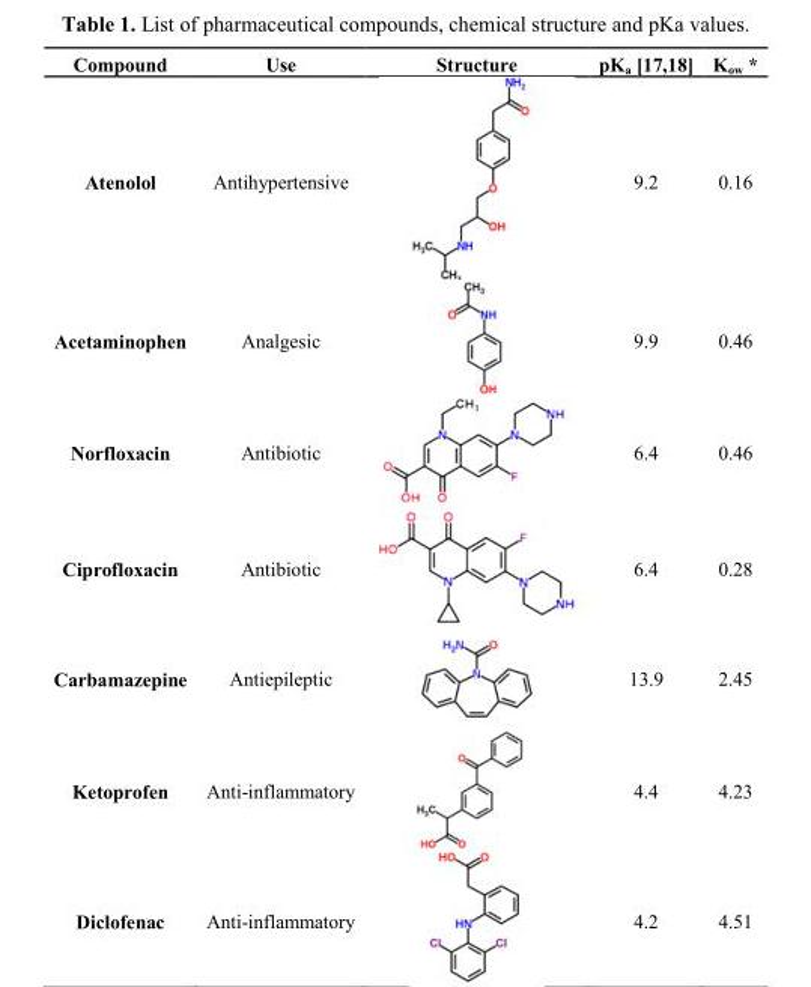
<table><thead><tr><td>Compound</td><td>Use</td><td>Structure</td><td>pK<sub>a</sub> [17,18]</td><td>K<sub>ow</sub> *</td></tr></thead><tbody><tr><td>Atenolol</td><td>Antihypertensive</td><td></td><td>9.2</td><td>0.16</td></tr><tr><td>Acetaminophen</td><td>Analgesic</td><td></td><td>9.9</td><td>0.46</td></tr><tr><td>Norfloxacin</td><td>Antibiotic</td><td></td><td>6.4</td><td>0.46</td></tr><tr><td>Ciprofloxacin</td><td>Antibiotic</td><td></td><td>6.4</td><td>0.28</td></tr><tr><td>Carbamazepine</td><td>Antiepileptic</td><td></td><td>13.9</td><td>2.45</td></tr><tr><td>Ketoprofen</td><td>Anti-inflammatory</td><td></td><td>4.4</td><td>4.23</td></tr><tr><td>Diclofenac</td><td>Anti-inflammatory</td><td></td><td>4.2</td><td>4.51</td></tr></tbody></table>